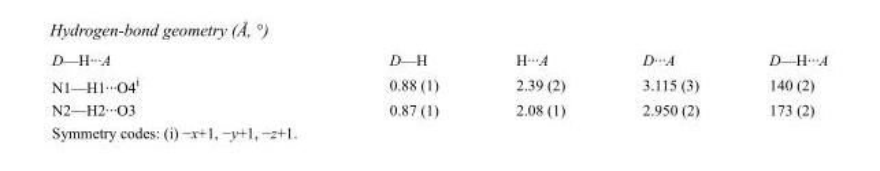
<table><tbody><tr><td>D—H···A</td><td>D—H</td><td>H···A</td><td>D···A</td><td>D—H···A</td></tr><tr><td>N1—H1···O4<sup>i</sup></td><td>0.88 (1)</td><td>2.39 (2)</td><td>3.115 (3)</td><td>140 (2)</td></tr><tr><td>N2—H2···O3</td><td>0.87 (1)</td><td>2.08 (1)</td><td>2.950 (2)</td><td>173 (2)</td></tr></tbody></table>